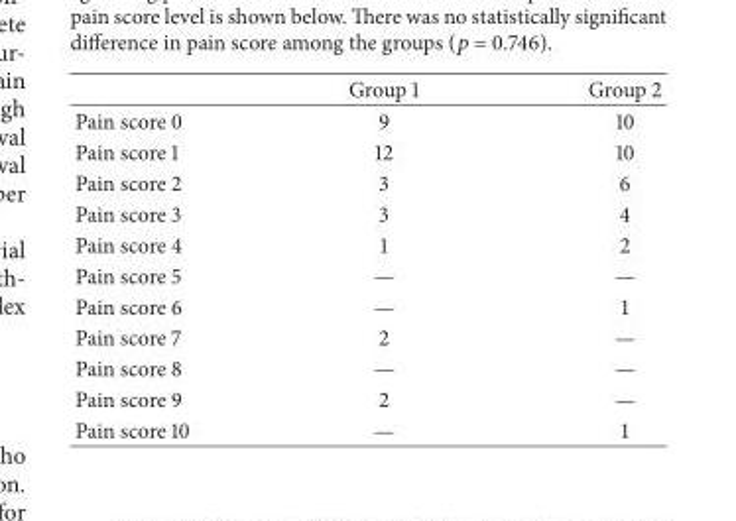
<table><thead><tr><td></td><td>Group 1</td><td>Group 2</td></tr></thead><tbody><tr><td>Pain score 0</td><td>9</td><td>10</td></tr><tr><td>Pain score 1</td><td>12</td><td>10</td></tr><tr><td>Pain score 2</td><td>3</td><td>6</td></tr><tr><td>Pain score 3</td><td>3</td><td>4</td></tr><tr><td>Pain score 4</td><td>1</td><td>2</td></tr><tr><td>Pain score 5</td><td>—</td><td>—</td></tr><tr><td>Pain score 6</td><td>—</td><td>1</td></tr><tr><td>Pain score 7</td><td>2</td><td>—</td></tr><tr><td>Pain score 8</td><td>—</td><td>—</td></tr><tr><td>Pain score 9</td><td>2</td><td>—</td></tr><tr><td>Pain score 10</td><td>—</td><td>1</td></tr></tbody></table>